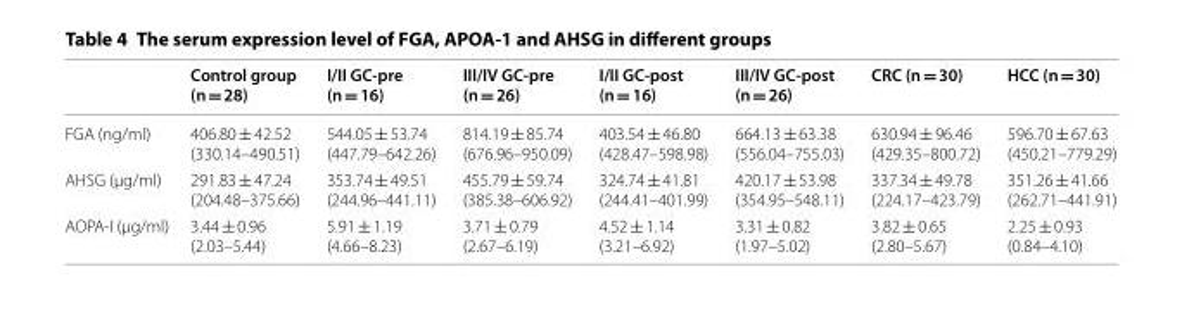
<table><thead><tr><td></td><td>Control group (n = 28)</td><td>I/II GC‑pre (n = 16)</td><td>III/IV GC‑pre (n = 26)</td><td>I/II GC‑post (n = 16)</td><td>III/IV GC‑post (n = 26)</td><td>CRC (n = 30)</td><td>HCC (n = 30)</td></tr></thead><tbody><tr><td>FGA (ng/ml)</td><td>406.80 ± 42.52 (330.14–490.51)</td><td>544.05 ± 53.74 (447.79–642.26)</td><td>814.19 ± 85.74 (676.96–950.09)</td><td>403.54 ± 46.80 (428.47–598.98)</td><td>664.13 ± 63.38 (556.04–755.03)</td><td>630.94 ± 96.46 (429.35–800.72)</td><td>596.70 ± 67.63 (450.21–779.29)</td></tr><tr><td>AHSG (μg/ml)</td><td>291.83 ± 47.24 (204.48–375.66)</td><td>353.74 ± 49.51 (244.96–441.11)</td><td>455.79 ± 59.74 (385.38–606.92)</td><td>324.74 ± 41.81 (244.41–401.99)</td><td>420.17 ± 53.98 (354.95–548.11)</td><td>337.34 ± 49.78 (224.17–423.79)</td><td>351.26 ± 41.66 (262.71–441.91)</td></tr><tr><td>AOPA-I (μg/ml)</td><td>3.44 ± 0.96 (2.03–5.44)</td><td>5.91 ± 1.19 (4.66–8.23)</td><td>3.71 ± 0.79 (2.67–6.19)</td><td>4.52 ± 1.14 (3.21–6.92)</td><td>3.31 ± 0.82 (1.97–5.02)</td><td>3.82 ± 0.65 (2.80–5.67)</td><td>2.25 ± 0.93 (0.84–4.10)</td></tr></tbody></table>